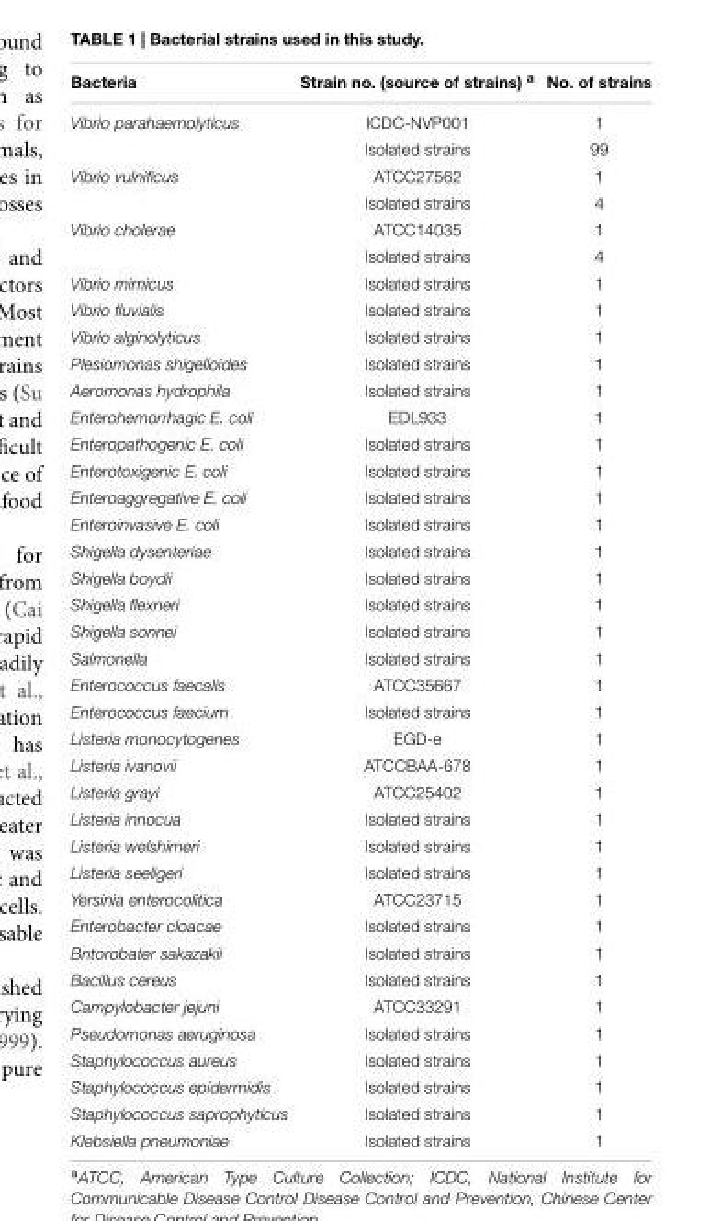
<table><thead><tr><td>Bacteria</td><td>Strain no. (source of strains) <sup>a</sup></td><td>No. of strains</td></tr></thead><tbody><tr><td rowspan="2">Vibrio parahaemolyticus</td><td>ICDC-NVP001</td><td>1</td></tr><tr><td>Isolated strains</td><td>99</td></tr><tr><td rowspan="2">Vibrio vulnificus</td><td>ATCC27562</td><td>1</td></tr><tr><td>Isolated strains</td><td>4</td></tr><tr><td rowspan="2">Vibrio cholerae</td><td>ATCC14035</td><td>1</td></tr><tr><td>Isolated strains</td><td>4</td></tr><tr><td>Vibrio mimicus</td><td>Isolated strains</td><td>1</td></tr><tr><td>Vibrio fluvialis</td><td>Isolated strains</td><td>1</td></tr><tr><td>Vibrio alginolyticus</td><td>Isolated strains</td><td>1</td></tr><tr><td>Plesiomonas shigelloides</td><td>Isolated strains</td><td>1</td></tr><tr><td>Aeromonas hydrophila</td><td>Isolated strains</td><td>1</td></tr><tr><td>Enterohemorrhagic E. coli</td><td>EDL933</td><td>1</td></tr><tr><td>Enteropathogenic E. coli</td><td>Isolated strains</td><td>1</td></tr><tr><td>Enterotoxigenic E. coli</td><td>Isolated strains</td><td>1</td></tr><tr><td>Enteroaggregative E. coli</td><td>Isolated strains</td><td>1</td></tr><tr><td>Enteroinvasive E. coli</td><td>Isolated strains</td><td>1</td></tr><tr><td>Shigella dysenteriae</td><td>Isolated strains</td><td>1</td></tr><tr><td>Shigella boydii</td><td>Isolated strains</td><td>1</td></tr><tr><td>Shigella flexneri</td><td>Isolated strains</td><td>1</td></tr><tr><td>Shigella sonnei</td><td>Isolated strains</td><td>1</td></tr><tr><td>Salmonella</td><td>Isolated strains</td><td>1</td></tr><tr><td>Enterococcus faecalis</td><td>ATCC35667</td><td>1</td></tr><tr><td>Enterococcus faecium</td><td>Isolated strains</td><td>1</td></tr><tr><td>Listeria monocytogenes</td><td>EGD-e</td><td>1</td></tr><tr><td>Listeria ivanovii</td><td>ATCCBAA-678</td><td>1</td></tr><tr><td>Listeria grayi</td><td>ATCC25402</td><td>1</td></tr><tr><td>Listeria innocua</td><td>Isolated strains</td><td>1</td></tr><tr><td>Listeria welshimeri</td><td>Isolated strains</td><td>1</td></tr><tr><td>Listeria seeligeri</td><td>Isolated strains</td><td>1</td></tr><tr><td>Yersinia enterocolitica</td><td>ATCC23715</td><td>1</td></tr><tr><td>Enterobacter cloacae</td><td>Isolated strains</td><td>1</td></tr><tr><td>Bntorobater sakazakii</td><td>Isolated strains</td><td>1</td></tr><tr><td>Bacillus cereus</td><td>Isolated strains</td><td>1</td></tr><tr><td>Campylobacter jejuni</td><td>ATCC33291</td><td>1</td></tr><tr><td>Pseudomonas aeruginosa</td><td>Isolated strains</td><td>1</td></tr><tr><td>Staphylococcus aureus</td><td>Isolated strains</td><td>1</td></tr><tr><td>Staphylococcus epidermidis</td><td>Isolated strains</td><td>1</td></tr><tr><td>Staphylococcus saprophyticus</td><td>Isolated strains</td><td>1</td></tr><tr><td>Klebsiella pneumoniae</td><td>Isolated strains</td><td>1</td></tr></tbody></table>